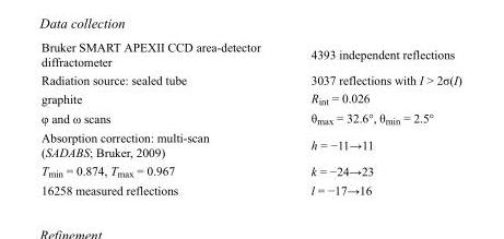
<table><tbody><tr><td>Bruker SMART APEXII CCD area-detector diffractometer</td><td>4393 independent reflections</td></tr><tr><td>Radiation source: sealed tube</td><td>3037 reflections with I &gt; 2σ(I)</td></tr><tr><td>graphite</td><td>R<sub>int</sub> = 0.026</td></tr><tr><td>φ and ω scans</td><td>θ<sub>max</sub> = 32.6°, θ<sub>min</sub> = 2.5°</td></tr><tr><td>Absorption correction: multi-scan (SADABS; Bruker, 2009)</td><td>h = −11→11</td></tr><tr><td>T<sub>min</sub> = 0.874, T<sub>max</sub> = 0.967</td><td>k = −24→23</td></tr><tr><td>16258 measured reflections</td><td>l = −17→16</td></tr></tbody></table>